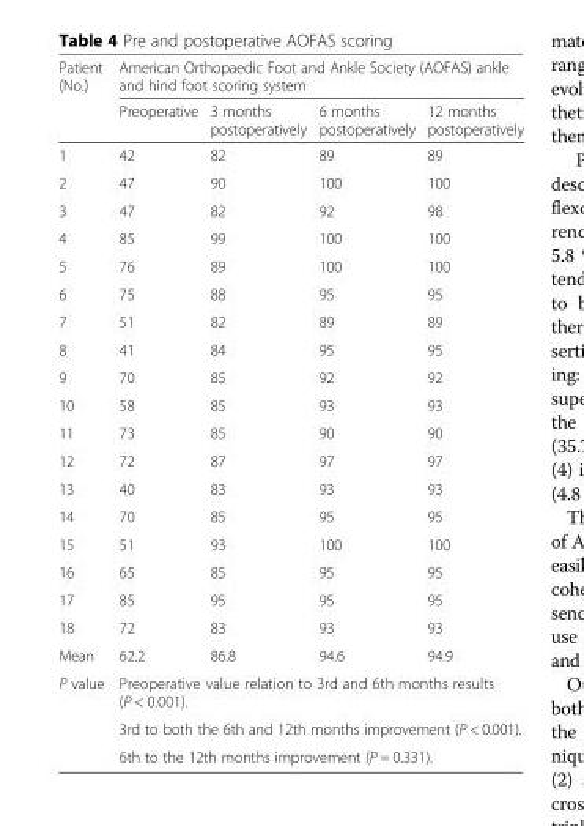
<table><thead><tr><td rowspan="2">Patient (No.)</td><td colspan="4">American Orthopaedic Foot and Ankle Society (AOFAS) ankle and hind foot scoring system</td></tr><tr><td>Preoperative</td><td>3 months postoperatively</td><td>6 months postoperatively</td><td>12 months postoperatively</td></tr></thead><tbody><tr><td>1</td><td>42</td><td>82</td><td>89</td><td>89</td></tr><tr><td>2</td><td>47</td><td>90</td><td>100</td><td>100</td></tr><tr><td>3</td><td>47</td><td>82</td><td>92</td><td>98</td></tr><tr><td>4</td><td>85</td><td>99</td><td>100</td><td>100</td></tr><tr><td>5</td><td>76</td><td>89</td><td>100</td><td>100</td></tr><tr><td>6</td><td>75</td><td>88</td><td>95</td><td>95</td></tr><tr><td>7</td><td>51</td><td>82</td><td>89</td><td>89</td></tr><tr><td>8</td><td>41</td><td>84</td><td>95</td><td>95</td></tr><tr><td>9</td><td>70</td><td>85</td><td>92</td><td>92</td></tr><tr><td>10</td><td>58</td><td>85</td><td>93</td><td>93</td></tr><tr><td>11</td><td>73</td><td>85</td><td>90</td><td>90</td></tr><tr><td>12</td><td>72</td><td>87</td><td>97</td><td>97</td></tr><tr><td>13</td><td>40</td><td>83</td><td>93</td><td>93</td></tr><tr><td>14</td><td>70</td><td>85</td><td>95</td><td>95</td></tr><tr><td>15</td><td>51</td><td>93</td><td>100</td><td>100</td></tr><tr><td>16</td><td>65</td><td>85</td><td>95</td><td>95</td></tr><tr><td>17</td><td>85</td><td>95</td><td>95</td><td>95</td></tr><tr><td>18</td><td>72</td><td>83</td><td>93</td><td>93</td></tr><tr><td>Mean</td><td>62.2</td><td>86.8</td><td>94.6</td><td>94.9</td></tr><tr><td rowspan="3">P value</td><td colspan="4">Preoperative value relation to 3rd and 6th months results (P &lt; 0.001).</td></tr><tr><td colspan="4">3rd to both the 6th and 12th months improvement (P &lt; 0.001).</td></tr><tr><td colspan="4">6th to the 12th months improvement (P = 0.331).</td></tr></tbody></table>